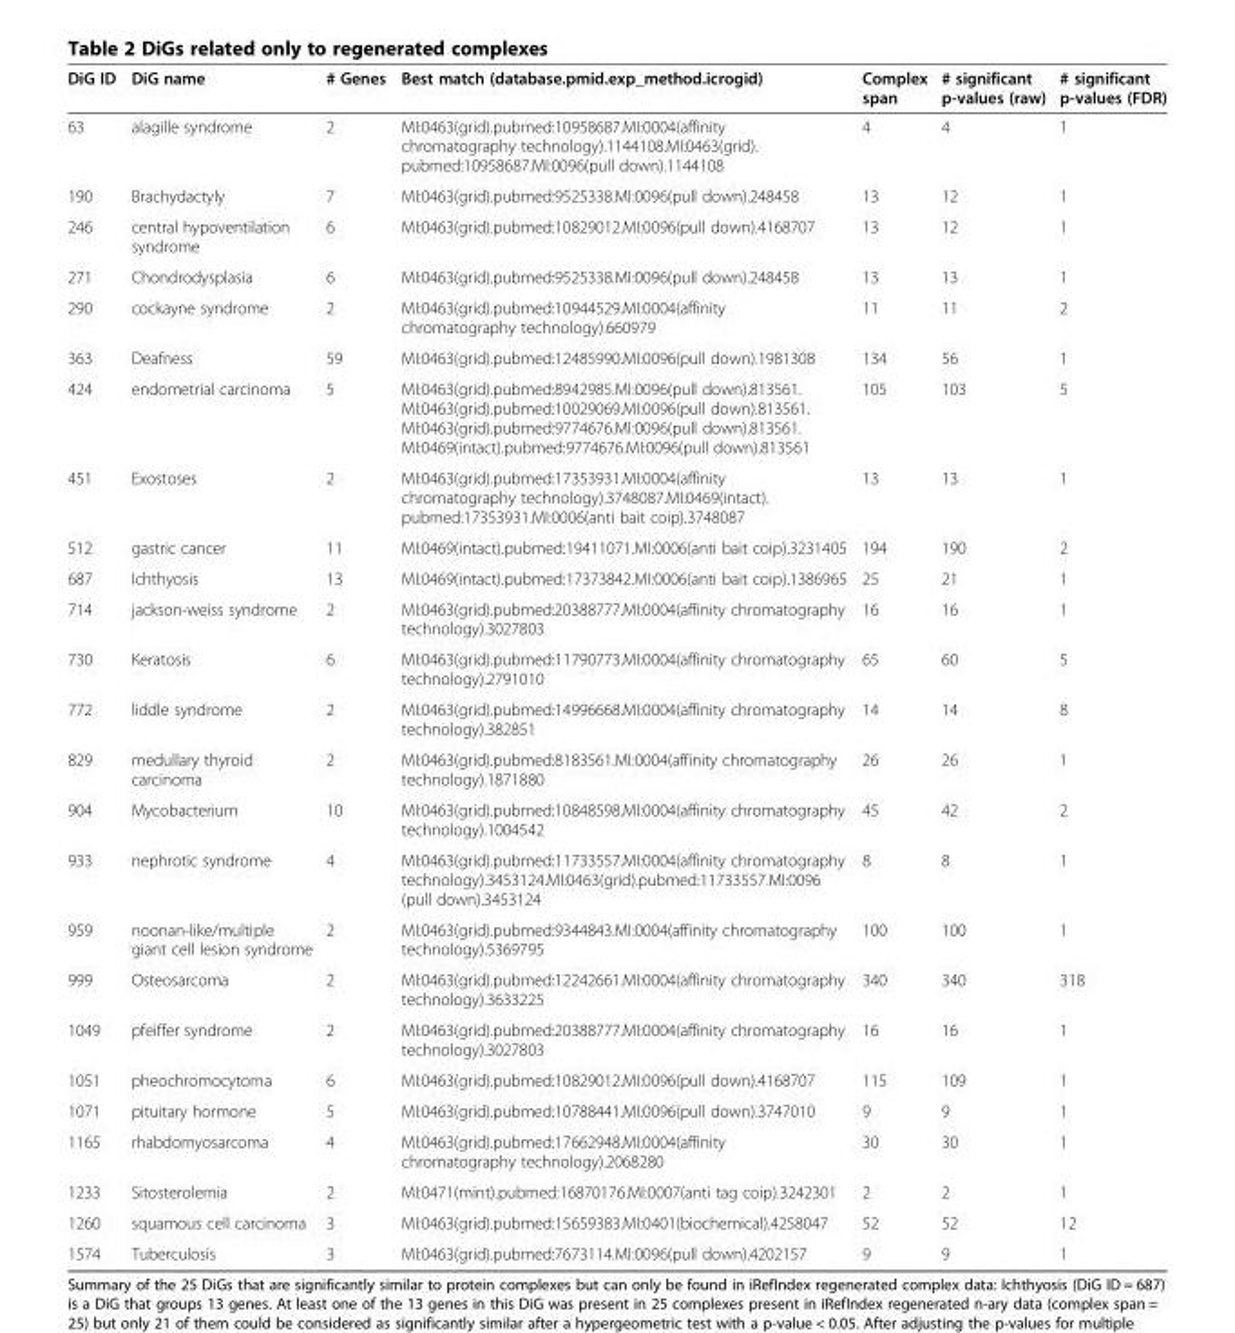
<table><thead><tr><td>DiG ID</td><td>DiG name</td><td># Genes</td><td>Best match (database.pmid.exp_method.icrogid)</td><td>Complex span</td><td># significant p-values (raw)</td><td># significant p-values (FDR)</td></tr></thead><tbody><tr><td>63</td><td>alagille syndrome</td><td>2</td><td>MI:0463(grid).pubmed:10958687.MI:0004(affinity chromatography technology).1144108.MI:0463(grid). pubmed:10958687.MI:0096(pull down).1144108</td><td>4</td><td>4</td><td>1</td></tr><tr><td>190</td><td>Brachydactyly</td><td>7</td><td>MI:0463(grid).pubmed:9525338.MI:0096(pull down).248458</td><td>13</td><td>12</td><td>1</td></tr><tr><td>246</td><td>central hypoventilation syndrome</td><td>6</td><td>MI:0463(grid).pubmed:10829012.MI:0096(pull down).4168707</td><td>13</td><td>12</td><td>1</td></tr><tr><td>271</td><td>Chondrodysplasia</td><td>6</td><td>MI:0463(grid).pubmed:9525338.MI:0096(pull down).248458</td><td>13</td><td>13</td><td>1</td></tr><tr><td>290</td><td>cockayne syndrome</td><td>2</td><td>MI:0463(grid).pubmed:10944529.MI:0004(affinity chromatography technology).660979</td><td>11</td><td>11</td><td>2</td></tr><tr><td>363</td><td>Deafness</td><td>59</td><td>MI:0463(grid).pubmed:12485990.MI:0096(pull down).1981308</td><td>134</td><td>56</td><td>1</td></tr><tr><td>424</td><td>endometrial carcinoma</td><td>5</td><td>MI:0463(grid).pubmed:8942985.MI:0096(pull down).813561. MI:0463(grid).pubmed:10029069.MI:0096(pull down).813561. MI:0463(grid).pubmed:9774676.MI:0096(pull down).813561. MI:0469(intact).pubmed:9774676.MI:0096(pull down).813561</td><td>105</td><td>103</td><td>5</td></tr><tr><td>451</td><td>Exostoses</td><td>2</td><td>MI:0463(grid).pubmed:17353931.MI:0004(affinity chromatography technology).3748087.MI:0469(intact). pubmed:17353931.MI:0006(anti bait coip).3748087</td><td>13</td><td>13</td><td>1</td></tr><tr><td>512</td><td>gastric cancer</td><td>11</td><td>MI:0469(intact).pubmed:19411071.MI:0006(anti bait coip).3231405</td><td>194</td><td>190</td><td>2</td></tr><tr><td>687</td><td>Ichthyosis</td><td>13</td><td>MI:0469(intact).pubmed:17373842.MI:0006(anti bait coip).1386965</td><td>25</td><td>21</td><td>1</td></tr><tr><td>714</td><td>jackson-weiss syndrome</td><td>2</td><td>MI:0463(grid).pubmed:20388777.MI:0004(affinity chromatography technology).3027803</td><td>16</td><td>16</td><td>1</td></tr><tr><td>730</td><td>Keratosis</td><td>6</td><td>MI:0463(grid).pubmed:11790773.MI:0004(affinity chromatography technology).2791010</td><td>65</td><td>60</td><td>5</td></tr><tr><td>772</td><td>liddle syndrome</td><td>2</td><td>MI:0463(grid).pubmed:14996668.MI:0004(affinity chromatography technology).382851</td><td>14</td><td>14</td><td>8</td></tr><tr><td>829</td><td>medullary thyroid carcinoma</td><td>2</td><td>MI:0463(grid).pubmed:8183561.MI:0004(affinity chromatography technology).1871880</td><td>26</td><td>26</td><td>1</td></tr><tr><td>904</td><td>Mycobacterium</td><td>10</td><td>MI:0463(grid).pubmed:10848598.MI:0004(affinity chromatography technology).1004542</td><td>45</td><td>42</td><td>2</td></tr><tr><td>933</td><td>nephrotic syndrome</td><td>4</td><td>MI:0463(grid).pubmed:11733557.MI:0004(affinity chromatography technology).3453124.MI:0463(grid).pubmed:11733557.MI:0096 (pull down).3453124</td><td>8</td><td>8</td><td>1</td></tr><tr><td>959</td><td>noonan-like/multiple giant cell lesion syndrome</td><td>2</td><td>MI:0463(grid).pubmed:9344843.MI:0004(affinity chromatography technology).5369795</td><td>100</td><td>100</td><td>1</td></tr><tr><td>999</td><td>Osteosarcoma</td><td>2</td><td>MI:0463(grid).pubmed:12242661.MI:0004(affinity chromatography technology).3633225</td><td>340</td><td>340</td><td>318</td></tr><tr><td>1049</td><td>pfeiffer syndrome</td><td>2</td><td>MI:0463(grid).pubmed:20388777.MI:0004(affinity chromatography technology).3027803</td><td>16</td><td>16</td><td>1</td></tr><tr><td>1051</td><td>pheochromocytoma</td><td>6</td><td>MI:0463(grid).pubmed:10829012.MI:0096(pull down).4168707</td><td>115</td><td>109</td><td>1</td></tr><tr><td>1071</td><td>pituitary hormone</td><td>5</td><td>MI:0463(grid).pubmed:10788441.MI:0096(pull down).3747010</td><td>9</td><td>9</td><td>1</td></tr><tr><td>1165</td><td>rhabdomyosarcoma</td><td>4</td><td>MI:0463(grid).pubmed:17662948.MI:0004(affinity chromatography technology).2068280</td><td>30</td><td>30</td><td>1</td></tr><tr><td>1233</td><td>Sitosterolemia</td><td>2</td><td>MI:0471(mint).pubmed:16870176.MI:0007(anti tag coip).3242301</td><td>2</td><td>2</td><td>1</td></tr><tr><td>1260</td><td>squamous cell carcinoma</td><td>3</td><td>MI:0463(grid).pubmed:15659383.MI:0401(biochemical).4258047</td><td>52</td><td>52</td><td>12</td></tr><tr><td>1574</td><td>Tuberculosis</td><td>3</td><td>MI:0463(grid).pubmed:7673114.MI:0096(pull down).4202157</td><td>9</td><td>9</td><td>1</td></tr></tbody></table>